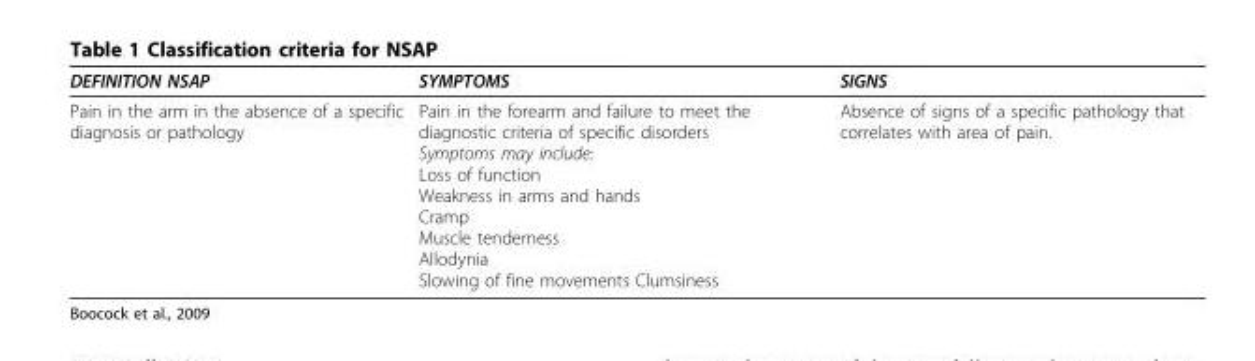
<table><thead><tr><td>DEFINITION NSAP</td><td>SYMPTOMS</td><td>SIGNS</td></tr></thead><tbody><tr><td>Pain in the arm in the absence of a specific diagnosis or pathology</td><td>Pain in the forearm and failure to meet the diagnostic criteria of specific disorders Symptoms may include: Loss of function Weakness in arms and hands Cramp Muscle tenderness Allodynia Slowing of fine movements Clumsiness</td><td>Absence of signs of a specific pathology that correlates with area of pain.</td></tr></tbody></table>